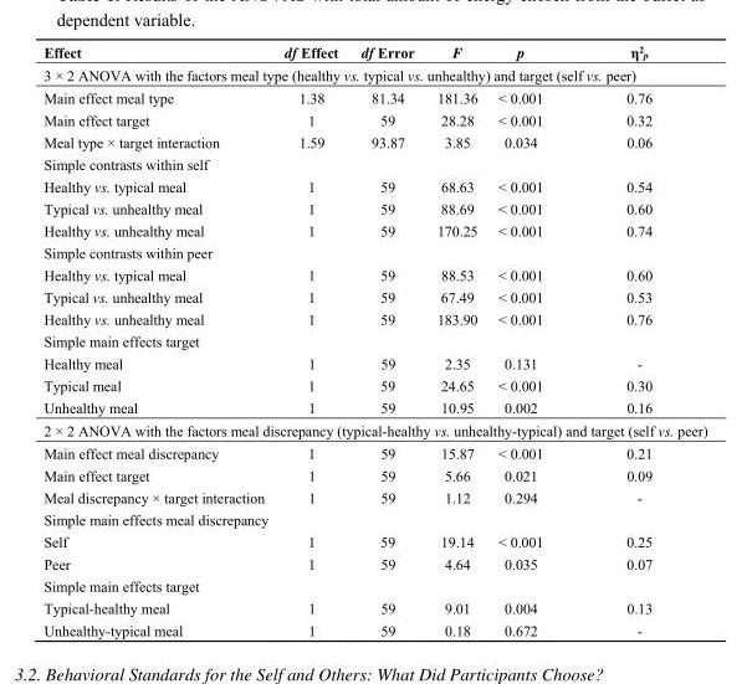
<table><thead><tr><td>Effect</td><td>df Effect</td><td>df Error</td><td>F</td><td>p</td><td>η<sup>2</sup><sub>p</sub></td></tr></thead><tbody><tr><td colspan="6">3 × 2 ANOVA with the factors meal type (healthy vs. typical vs. unhealthy) and target (self vs. peer)</td></tr><tr><td>Main effect meal type</td><td>1.38</td><td>81.34</td><td>181.36</td><td>&lt; 0.001</td><td>0.76</td></tr><tr><td>Main effect target</td><td>1</td><td>59</td><td>28.28</td><td>&lt; 0.001</td><td>0.32</td></tr><tr><td>Meal type × target interaction</td><td>1.59</td><td>93.87</td><td>3.85</td><td>0.034</td><td>0.06</td></tr><tr><td colspan="6">Simple contrasts within self</td></tr><tr><td>Healthy vs. typical meal</td><td>1</td><td>59</td><td>68.63</td><td>&lt; 0.001</td><td>0.54</td></tr><tr><td>Typical vs. unhealthy meal</td><td>1</td><td>59</td><td>88.69</td><td>&lt; 0.001</td><td>0.60</td></tr><tr><td>Healthy vs. unhealthy meal</td><td>1</td><td>59</td><td>170.25</td><td>&lt; 0.001</td><td>0.74</td></tr><tr><td colspan="6">Simple contrasts within peer</td></tr><tr><td>Healthy vs. typical meal</td><td>1</td><td>59</td><td>88.53</td><td>&lt; 0.001</td><td>0.60</td></tr><tr><td>Typical vs. unhealthy meal</td><td>1</td><td>59</td><td>67.49</td><td>&lt; 0.001</td><td>0.53</td></tr><tr><td>Healthy vs. unhealthy meal</td><td>1</td><td>59</td><td>183.90</td><td>&lt; 0.001</td><td>0.76</td></tr><tr><td colspan="6">Simple main effects target</td></tr><tr><td>Healthy meal</td><td>1</td><td>59</td><td>2.35</td><td>0.131</td><td>-</td></tr><tr><td>Typical meal</td><td>1</td><td>59</td><td>24.65</td><td>&lt; 0.001</td><td>0.30</td></tr><tr><td>Unhealthy meal</td><td>1</td><td>59</td><td>10.95</td><td>0.002</td><td>0.16</td></tr><tr><td colspan="6">2 × 2 ANOVA with the factors meal discrepancy (typical-healthy vs. unhealthy-typical) and target (self vs. peer)</td></tr><tr><td>Main effect meal discrepancy</td><td>1</td><td>59</td><td>15.87</td><td>&lt; 0.001</td><td>0.21</td></tr><tr><td>Main effect target</td><td>1</td><td>59</td><td>5.66</td><td>0.021</td><td>0.09</td></tr><tr><td>Meal discrepancy × target interaction</td><td>1</td><td>59</td><td>1.12</td><td>0.294</td><td>-</td></tr><tr><td colspan="6">Simple main effects meal discrepancy</td></tr><tr><td>Self</td><td>1</td><td>59</td><td>19.14</td><td>&lt; 0.001</td><td>0.25</td></tr><tr><td>Peer</td><td>1</td><td>59</td><td>4.64</td><td>0.035</td><td>0.07</td></tr><tr><td colspan="6">Simple main effects target</td></tr><tr><td>Typical-healthy meal</td><td>1</td><td>59</td><td>9.01</td><td>0.004</td><td>0.13</td></tr><tr><td>Unhealthy-typical meal</td><td>1</td><td>59</td><td>0.18</td><td>0.672</td><td>-</td></tr></tbody></table>